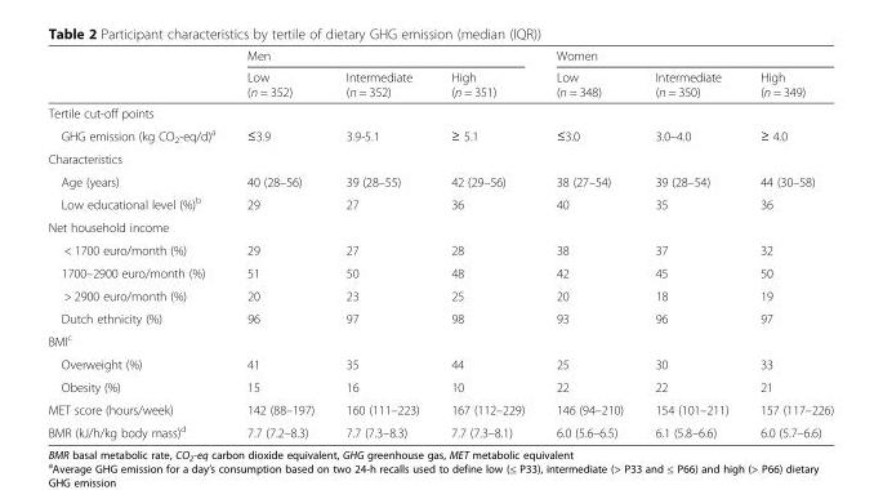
<table><thead><tr><td rowspan="2"></td><td colspan="3">Men</td><td colspan="3">Women</td></tr><tr><td>Low (n = 352)</td><td>Intermediate (n = 352)</td><td>High (n = 351)</td><td>Low (n = 348)</td><td>Intermediate (n = 350)</td><td>High (n = 349)</td></tr></thead><tbody><tr><td colspan="7">Tertile cut-off points</td></tr><tr><td>GHG emission (kg CO<sub>2</sub>-eq/d)<sup>a</sup></td><td>≤3.9</td><td>3.9-5.1</td><td>≥ 5.1</td><td>≤3.0</td><td>3.0–4.0</td><td>≥ 4.0</td></tr><tr><td colspan="7">Characteristics</td></tr><tr><td>Age (years)</td><td>40 (28–56)</td><td>39 (28–55)</td><td>42 (29–56)</td><td>38 (27–54)</td><td>39 (28–54)</td><td>44 (30–58)</td></tr><tr><td>Low educational level (%)<sup>b</sup></td><td>29</td><td>27</td><td>36</td><td>40</td><td>35</td><td>36</td></tr><tr><td colspan="7">Net household income</td></tr><tr><td>&lt; 1700 euro/month (%)</td><td>29</td><td>27</td><td>28</td><td>38</td><td>37</td><td>32</td></tr><tr><td>1700–2900 euro/month (%)</td><td>51</td><td>50</td><td>48</td><td>42</td><td>45</td><td>50</td></tr><tr><td>&gt; 2900 euro/month (%)</td><td>20</td><td>23</td><td>25</td><td>20</td><td>18</td><td>19</td></tr><tr><td>Dutch ethnicity (%)</td><td>96</td><td>97</td><td>98</td><td>93</td><td>96</td><td>97</td></tr><tr><td colspan="7">BMI<sup>c</sup></td></tr><tr><td>Overweight (%)</td><td>41</td><td>35</td><td>44</td><td>25</td><td>30</td><td>33</td></tr><tr><td>Obesity (%)</td><td>15</td><td>16</td><td>10</td><td>22</td><td>22</td><td>21</td></tr><tr><td>MET score (hours/week)</td><td>142 (88–197)</td><td>160 (111–223)</td><td>167 (112–229)</td><td>146 (94–210)</td><td>154 (101–211)</td><td>157 (117–226)</td></tr><tr><td>BMR (kJ/h/kg body mass)<sup>d</sup></td><td>7.7 (7.2–8.3)</td><td>7.7 (7.3–8.3)</td><td>7.7 (7.3–8.1)</td><td>6.0 (5.6–6.5)</td><td>6.1 (5.8–6.6)</td><td>6.0 (5.7–6.6)</td></tr></tbody></table>